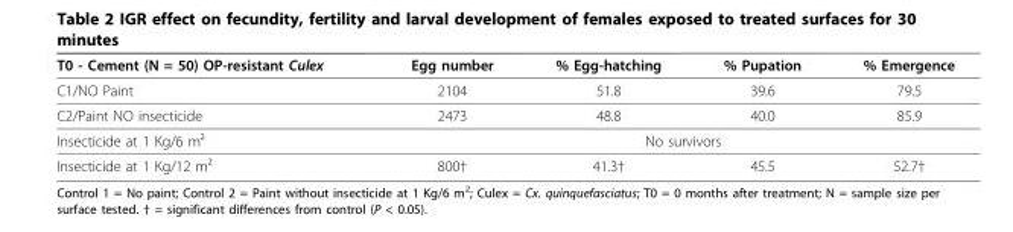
<table><thead><tr><td>T0 - Cement (N = 50) OP-resistant Culex</td><td>Egg number</td><td>% Egg-hatching</td><td>% Pupation</td><td>% Emergence</td></tr></thead><tbody><tr><td>C1/NO Paint</td><td>2104</td><td>51.8</td><td>39.6</td><td>79.5</td></tr><tr><td>C2/Paint NO insecticide</td><td>2473</td><td>48.8</td><td>40.0</td><td>85.9</td></tr><tr><td>Insecticide at 1 Kg/6 m²</td><td colspan="4">No survivors</td></tr><tr><td>Insecticide at 1 Kg/12 m²</td><td>800†</td><td>41.3†</td><td>45.5</td><td>52.7†</td></tr></tbody></table>